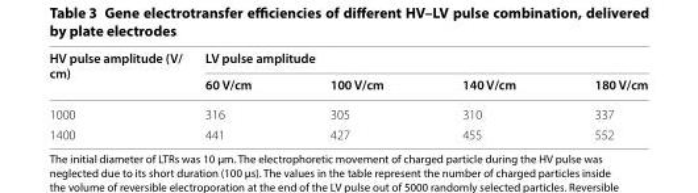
<table><thead><tr><td rowspan="2">HV pulse amplitude (V/ cm)</td><td colspan="4">LV pulse amplitude</td></tr><tr><td>60 V/cm</td><td>100 V/cm</td><td>140 V/cm</td><td>180 V/cm</td></tr></thead><tbody><tr><td>1000</td><td>316</td><td>305</td><td>310</td><td>337</td></tr><tr><td>1400</td><td>441</td><td>427</td><td>455</td><td>552</td></tr></tbody></table>